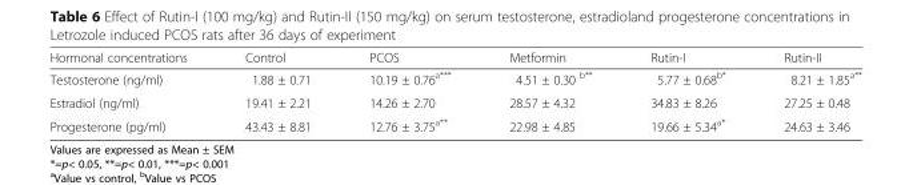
<table><thead><tr><td>Hormonal concentrations</td><td>Control</td><td>PCOS</td><td>Metformin</td><td>Rutin-I</td><td>Rutin-II</td></tr></thead><tbody><tr><td>Testosterone (ng/ml)</td><td>1.88 ± 0.71</td><td>10.19 ± 0.76<sup>a***</sup></td><td>4.51 ± 0.30 <sup>b**</sup></td><td>5.77 ± 0.68<sup>b*</sup></td><td>8.21 ± 1.85<sup>a**</sup></td></tr><tr><td>Estradiol (ng/ml)</td><td>19.41 ± 2.21</td><td>14.26 ± 2.70</td><td>28.57 ± 4.32</td><td>34.83 ± 8.26</td><td>27.25 ± 0.48</td></tr><tr><td>Progesterone (pg/ml)</td><td>43.43 ± 8.81</td><td>12.76 ± 3.75<sup>a**</sup></td><td>22.98 ± 4.85</td><td>19.66 ± 5.34<sup>a*</sup></td><td>24.63 ± 3.46</td></tr></tbody></table>